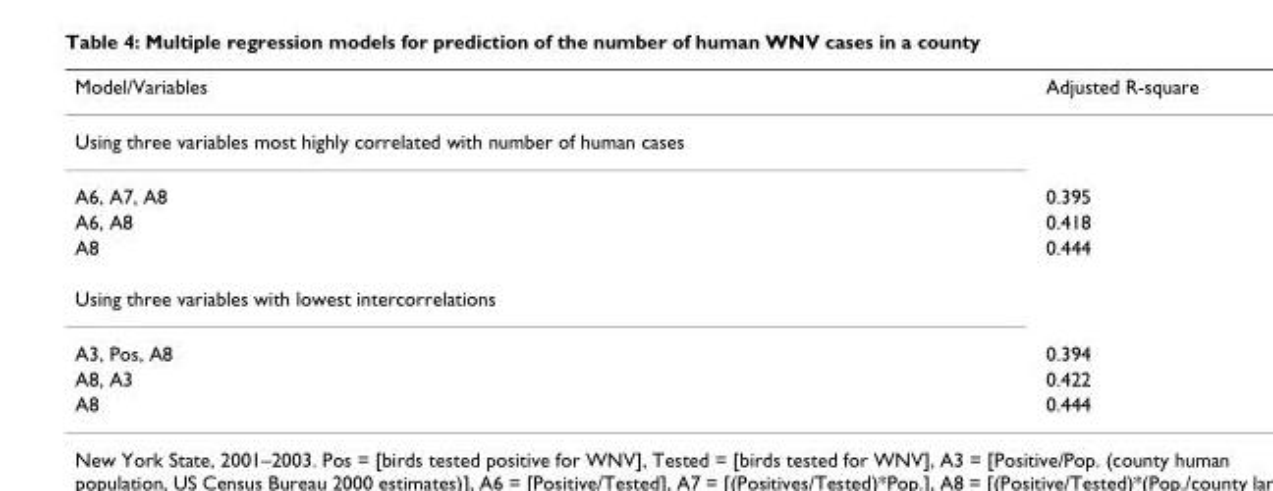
<table><thead><tr><td>Model/Variables</td><td>Adjusted R-square</td></tr></thead><tbody><tr><td colspan="2">Using three variables most highly correlated with number of human cases</td></tr><tr><td>A6, A7, A8</td><td>0.395</td></tr><tr><td>A6, A8</td><td>0.418</td></tr><tr><td>A8</td><td>0.444</td></tr><tr><td colspan="2">Using three variables with lowest intercorrelations</td></tr><tr><td>A3, Pos, A8</td><td>0.394</td></tr><tr><td>A8, A3</td><td>0.422</td></tr><tr><td>A8</td><td>0.444</td></tr></tbody></table>